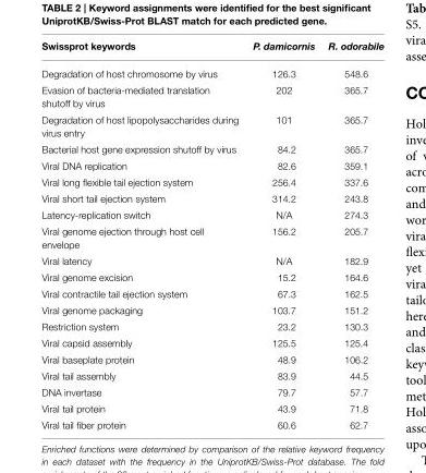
<table><thead><tr><td>Swissprot keywords</td><td>P. damicornis</td><td>R. odorabile</td></tr></thead><tbody><tr><td>Degradation of host chromosome by virus</td><td>126.3</td><td>548.6</td></tr><tr><td>Evasion of bacteria-mediated translation shutoff by virus</td><td>202</td><td>365.7</td></tr><tr><td>Degradation of host lipopolysaccharides during virus entry</td><td>101</td><td>365.7</td></tr><tr><td>Bacterial host gene expression shutoff by virus</td><td>84.2</td><td>365.7</td></tr><tr><td>Viral DNA replication</td><td>82.6</td><td>359.1</td></tr><tr><td>Viral long flexible tail ejection system</td><td>256.4</td><td>337.6</td></tr><tr><td>Viral short tail ejection system</td><td>314.2</td><td>243.8</td></tr><tr><td>Latency-replication switch</td><td>N/A</td><td>274.3</td></tr><tr><td>Viral genome ejection through host cell envelope</td><td>156.2</td><td>205.7</td></tr><tr><td>Viral latency</td><td>N/A</td><td>182.9</td></tr><tr><td>Viral genome excision</td><td>15.2</td><td>164.6</td></tr><tr><td>Viral contractile tail ejection system</td><td>67.3</td><td>162.5</td></tr><tr><td>Viral genome packaging</td><td>103.7</td><td>151.2</td></tr><tr><td>Restriction system</td><td>23.2</td><td>130.3</td></tr><tr><td>Viral capsid assembly</td><td>125.5</td><td>125.4</td></tr><tr><td>Viral baseplate protein</td><td>48.9</td><td>106.2</td></tr><tr><td>Viral tail assembly</td><td>83.9</td><td>44.5</td></tr><tr><td>DNA invertase</td><td>79.7</td><td>57.7</td></tr><tr><td>Viral tail protein</td><td>43.9</td><td>71.8</td></tr><tr><td>Viral tail fiber protein</td><td>60.6</td><td>62.7</td></tr></tbody></table>